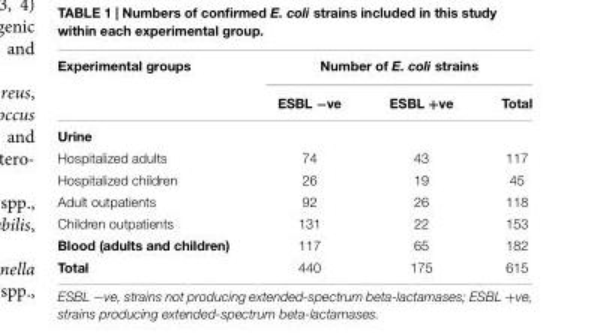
<table><thead><tr><td rowspan="2">Experimental groups</td><td colspan="3">Number of E. coli strains</td></tr><tr><td>ESBL −ve</td><td>ESBL +ve</td><td>Total</td></tr></thead><tbody><tr><td colspan="4">Urine</td></tr><tr><td>Hospitalized adults</td><td>74</td><td>43</td><td>117</td></tr><tr><td>Hospitalized children</td><td>26</td><td>19</td><td>45</td></tr><tr><td>Adult outpatients</td><td>92</td><td>26</td><td>118</td></tr><tr><td>Children outpatients</td><td>131</td><td>22</td><td>153</td></tr><tr><td>Blood (adults and children)</td><td>117</td><td>65</td><td>182</td></tr><tr><td>Total</td><td>440</td><td>175</td><td>615</td></tr></tbody></table>